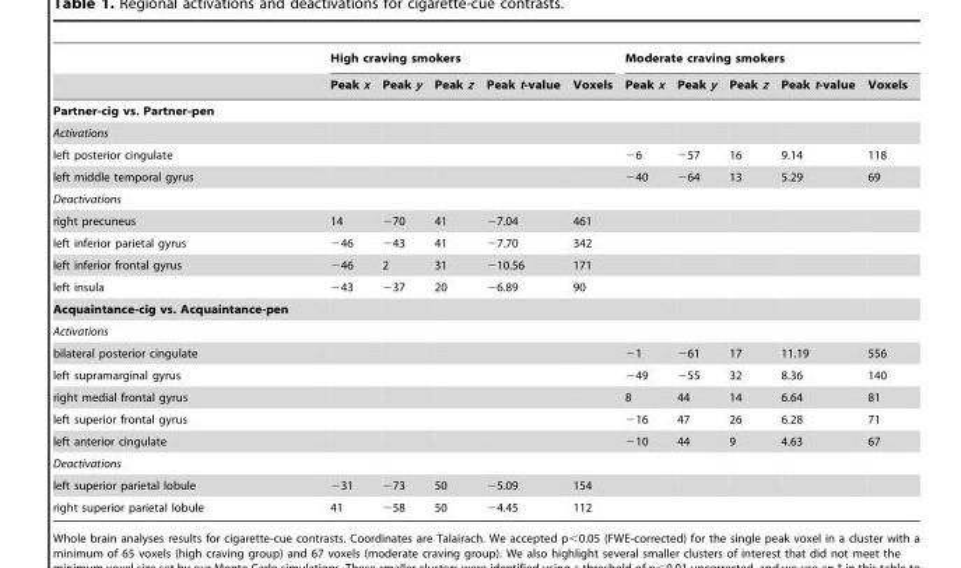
<table><thead><tr><td rowspan="2"></td><td colspan="5">High craving smokers</td><td colspan="5">Moderate craving smokers</td></tr><tr><td>Peak x</td><td>Peak y</td><td>Peak z</td><td>Peak t-value</td><td>Voxels</td><td>Peak x</td><td>Peak y</td><td>Peak z</td><td>Peak t-value</td><td>Voxels</td></tr></thead><tbody><tr><td colspan="11">Partner-cig vs. Partner-pen</td></tr><tr><td colspan="11">Activations</td></tr><tr><td>left posterior cingulate</td><td></td><td></td><td></td><td></td><td></td><td>−6</td><td>−57</td><td>16</td><td>9.14</td><td>118</td></tr><tr><td>left middle temporal gyrus</td><td></td><td></td><td></td><td></td><td></td><td>−40</td><td>−64</td><td>13</td><td>5.29</td><td>69</td></tr><tr><td colspan="11">Deactivations</td></tr><tr><td>right precuneus</td><td>14</td><td>−70</td><td>41</td><td>−7.04</td><td>461</td><td></td><td></td><td></td><td></td><td></td></tr><tr><td>left inferior parietal gyrus</td><td>−46</td><td>−43</td><td>41</td><td>−7.70</td><td>342</td><td></td><td></td><td></td><td></td><td></td></tr><tr><td>left inferior frontal gyrus</td><td>−46</td><td>2</td><td>31</td><td>−10.56</td><td>171</td><td></td><td></td><td></td><td></td><td></td></tr><tr><td>left insula</td><td>−43</td><td>−37</td><td>20</td><td>−6.89</td><td>90</td><td></td><td></td><td></td><td></td><td></td></tr><tr><td colspan="11">Acquaintance-cig vs. Acquaintance-pen</td></tr><tr><td colspan="11">Activations</td></tr><tr><td>bilateral posterior cingulate</td><td></td><td></td><td></td><td></td><td></td><td>−1</td><td>−61</td><td>17</td><td>11.19</td><td>556</td></tr><tr><td>left supramarginal gyrus</td><td></td><td></td><td></td><td></td><td></td><td>−49</td><td>−55</td><td>32</td><td>8.36</td><td>140</td></tr><tr><td>right medial frontal gyrus</td><td></td><td></td><td></td><td></td><td></td><td>8</td><td>44</td><td>14</td><td>6.64</td><td>81</td></tr><tr><td>left superior frontal gyrus</td><td></td><td></td><td></td><td></td><td></td><td>−16</td><td>47</td><td>26</td><td>6.28</td><td>71</td></tr><tr><td>left anterior cingulate</td><td></td><td></td><td></td><td></td><td></td><td>−10</td><td>44</td><td>9</td><td>4.63</td><td>67</td></tr><tr><td colspan="11">Deactivations</td></tr><tr><td>left superior parietal lobule</td><td>−31</td><td>−73</td><td>50</td><td>−5.09</td><td>154</td><td></td><td></td><td></td><td></td><td></td></tr><tr><td>right superior parietal lobule</td><td>41</td><td>−58</td><td>50</td><td>−4.45</td><td>112</td><td></td><td></td><td></td><td></td><td></td></tr></tbody></table>